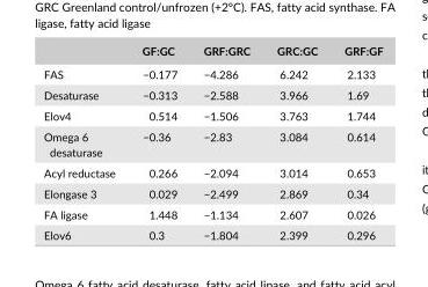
<table><thead><tr><td></td><td>GF:GC</td><td>GRF:GRC</td><td>GRC:GC</td><td>GRF:GF</td></tr></thead><tbody><tr><td>FAS</td><td>−0.177</td><td>−4.286</td><td>6.242</td><td>2.133</td></tr><tr><td>Desaturase</td><td>−0.313</td><td>−2.588</td><td>3.966</td><td>1.69</td></tr><tr><td>Elov4</td><td>0.514</td><td>−1.506</td><td>3.763</td><td>1.744</td></tr><tr><td>Omega 6 desaturase</td><td>−0.36</td><td>−2.83</td><td>3.084</td><td>0.614</td></tr><tr><td>Acyl reductase</td><td>0.266</td><td>−2.094</td><td>3.014</td><td>0.653</td></tr><tr><td>Elongase 3</td><td>0.029</td><td>−2.499</td><td>2.869</td><td>0.34</td></tr><tr><td>FA ligase</td><td>1.448</td><td>−1.134</td><td>2.607</td><td>0.026</td></tr><tr><td>Elov6</td><td>0.3</td><td>−1.804</td><td>2.399</td><td>0.296</td></tr></tbody></table>